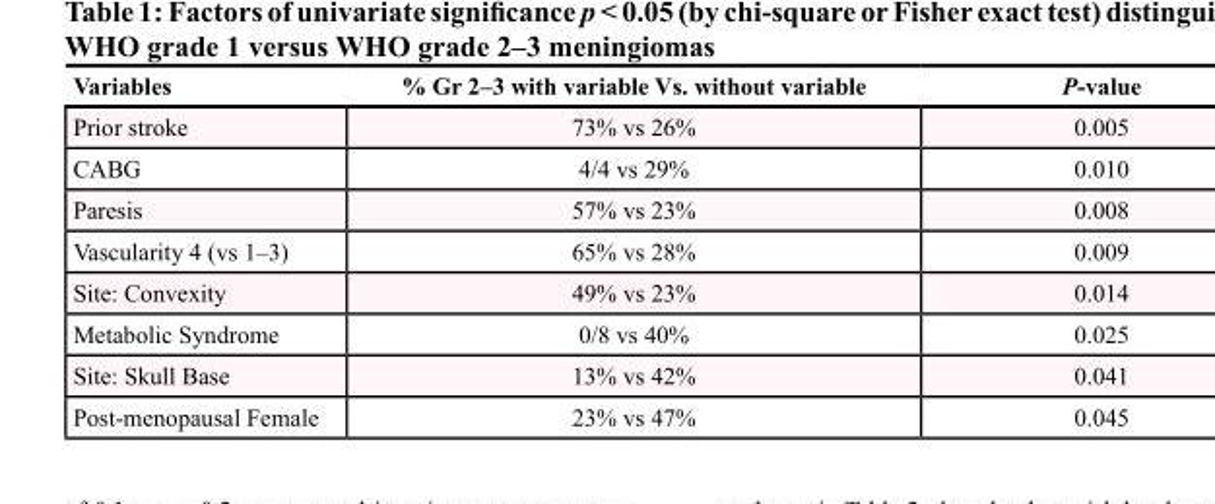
<table><thead><tr><td>Variables</td><td>% Gr 2–3 with variable Vs. without variable</td><td>P-value</td></tr></thead><tbody><tr><td>Prior stroke</td><td>73% vs 26%</td><td>0.005</td></tr><tr><td>CABG</td><td>4/4 vs 29%</td><td>0.010</td></tr><tr><td>Paresis</td><td>57% vs 23%</td><td>0.008</td></tr><tr><td>Vascularity 4 (vs 1–3)</td><td>65% vs 28%</td><td>0.009</td></tr><tr><td>Site: Convexity</td><td>49% vs 23%</td><td>0.014</td></tr><tr><td>Metabolic Syndrome</td><td>0/8 vs 40%</td><td>0.025</td></tr><tr><td>Site: Skull Base</td><td>13% vs 42%</td><td>0.041</td></tr><tr><td>Post-menopausal Female</td><td>23% vs 47%</td><td>0.045</td></tr></tbody></table>